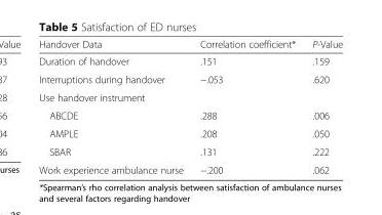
<table><thead><tr><td>Handover Data</td><td>Correlation coefficient*</td><td>P-Value</td></tr></thead><tbody><tr><td>Duration of handover</td><td>.151</td><td>.159</td></tr><tr><td>Interruptions during handover</td><td>−.053</td><td>.620</td></tr><tr><td colspan="3">Use handover instrument</td></tr><tr><td>ABCDE</td><td>.288</td><td>.006</td></tr><tr><td>AMPLE</td><td>.208</td><td>.050</td></tr><tr><td>SBAR</td><td>.131</td><td>.222</td></tr><tr><td>Work experience ambulance nurse</td><td>−.200</td><td>.062</td></tr></tbody></table>